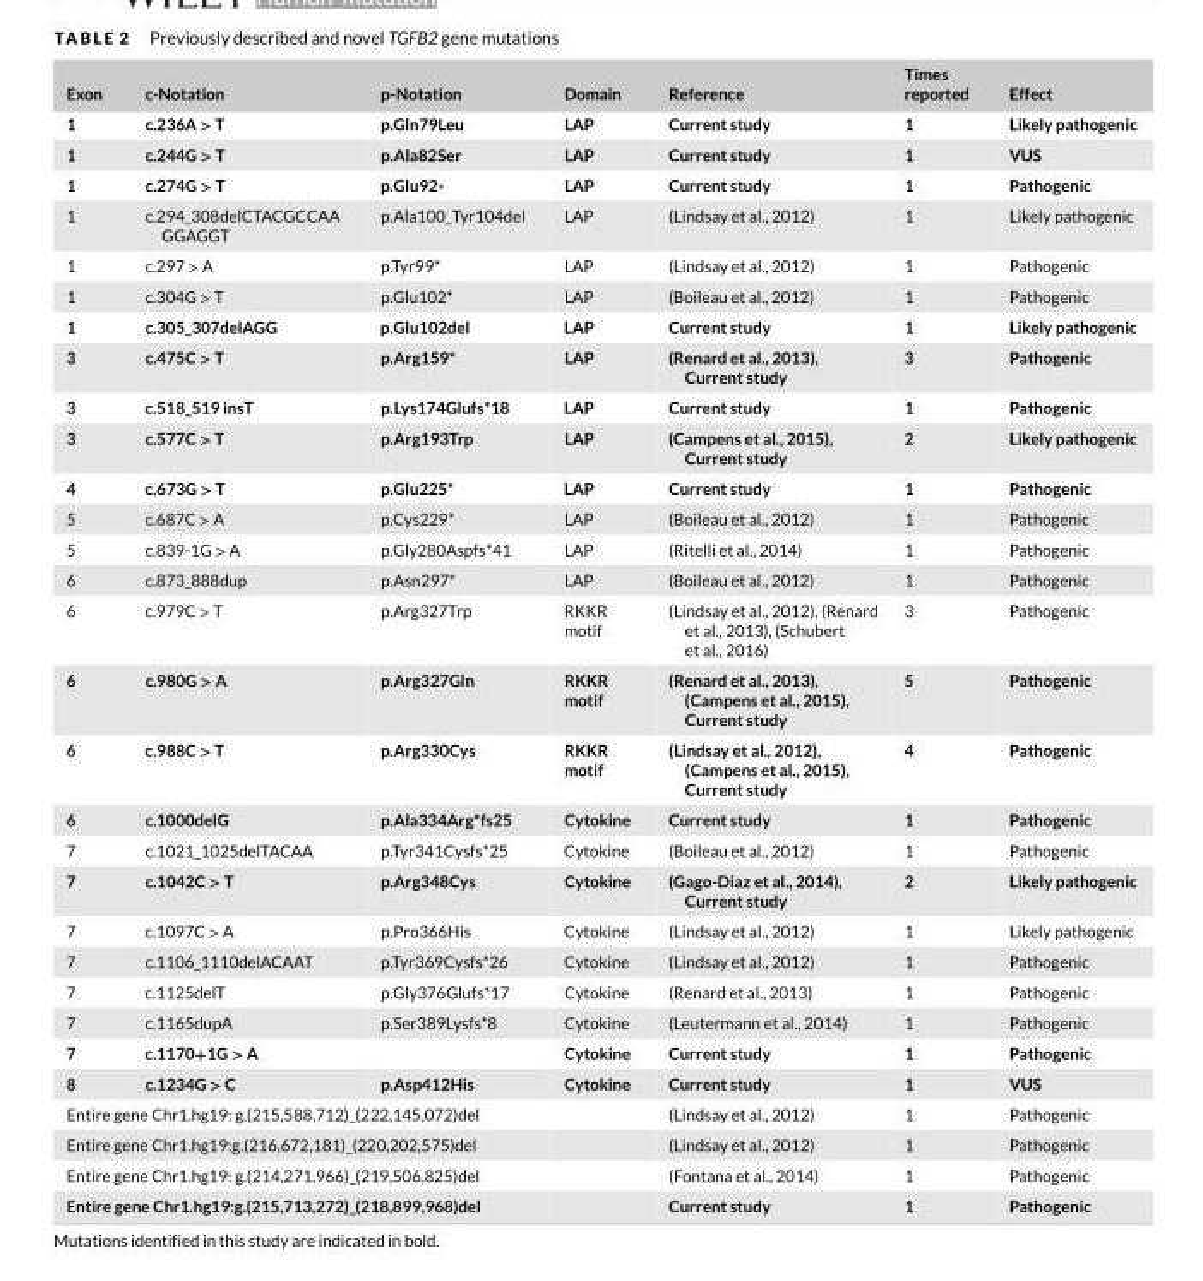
<table><thead><tr><td>Exon</td><td>c-Notation</td><td>p-Notation</td><td>Domain</td><td>Reference</td><td>Times reported</td><td>Effect</td></tr></thead><tbody><tr><td>1</td><td>c.236A &gt; T</td><td>p.Gln79Leu</td><td>LAP</td><td>Current study</td><td>1</td><td>Likely pathogenic</td></tr><tr><td>1</td><td>c.244G &gt; T</td><td>p.Ala82Ser</td><td>LAP</td><td>Current study</td><td>1</td><td>VUS</td></tr><tr><td>1</td><td>c.274G &gt; T</td><td>p.Glu92*</td><td>LAP</td><td>Current study</td><td>1</td><td>Pathogenic</td></tr><tr><td>1</td><td>c.294_308delCTACGCCAA GGAGGT</td><td>p.Ala100_Tyr104del</td><td>LAP</td><td>(Lindsay et al., 2012)</td><td>1</td><td>Likely pathogenic</td></tr><tr><td>1</td><td>c.297 &gt; A</td><td>p.Tyr99*</td><td>LAP</td><td>(Lindsay et al., 2012)</td><td>1</td><td>Pathogenic</td></tr><tr><td>1</td><td>c.304G &gt; T</td><td>p.Glu102*</td><td>LAP</td><td>(Boileau et al., 2012)</td><td>1</td><td>Pathogenic</td></tr><tr><td>1</td><td>c.305_307delAGG</td><td>p.Glu102del</td><td>LAP</td><td>Current study</td><td>1</td><td>Likely pathogenic</td></tr><tr><td>3</td><td>c.475C &gt; T</td><td>p.Arg159*</td><td>LAP</td><td>(Renard et al., 2013), Current study</td><td>3</td><td>Pathogenic</td></tr><tr><td>3</td><td>c.518_519 insT</td><td>p.Lys174Glufs*18</td><td>LAP</td><td>Current study</td><td>1</td><td>Pathogenic</td></tr><tr><td>3</td><td>c.577C &gt; T</td><td>p.Arg193Trp</td><td>LAP</td><td>(Campens et al., 2015), Current study</td><td>2</td><td>Likely pathogenic</td></tr><tr><td>4</td><td>c.673G &gt; T</td><td>p.Glu225*</td><td>LAP</td><td>Current study</td><td>1</td><td>Pathogenic</td></tr><tr><td>5</td><td>c.687C &gt; A</td><td>p.Cys229*</td><td>LAP</td><td>(Boileau et al., 2012)</td><td>1</td><td>Pathogenic</td></tr><tr><td>5</td><td>c.839-1G &gt; A</td><td>p.Gly280Aspfs*41</td><td>LAP</td><td>(Ritelli et al., 2014)</td><td>1</td><td>Pathogenic</td></tr><tr><td>6</td><td>c.873_888dup</td><td>p.Asn297*</td><td>LAP</td><td>(Boileau et al., 2012)</td><td>1</td><td>Pathogenic</td></tr><tr><td>6</td><td>c.979C &gt; T</td><td>p.Arg327Trp</td><td>RKKR motif</td><td>(Lindsay et al., 2012), (Renard et al., 2013), (Schubert et al., 2016)</td><td>3</td><td>Pathogenic</td></tr><tr><td>6</td><td>c.980G &gt; A</td><td>p.Arg327Gln</td><td>RKKR motif</td><td>(Renard et al., 2013), (Campens et al., 2015), Current study</td><td>5</td><td>Pathogenic</td></tr><tr><td>6</td><td>c.988C &gt; T</td><td>p.Arg330Cys</td><td>RKKR motif</td><td>(Lindsay et al., 2012), (Campens et al., 2015), Current study</td><td>4</td><td>Pathogenic</td></tr><tr><td>6</td><td>c.1000delG</td><td>p.Ala334Arg*fs25</td><td>Cytokine</td><td>Current study</td><td>1</td><td>Pathogenic</td></tr><tr><td>7</td><td>c.1021_1025delTACAA</td><td>p.Tyr341Cysfs*25</td><td>Cytokine</td><td>(Boileau et al., 2012)</td><td>1</td><td>Pathogenic</td></tr><tr><td>7</td><td>c.1042C &gt; T</td><td>p.Arg348Cys</td><td>Cytokine</td><td>(Gago-Diaz et al., 2014), Current study</td><td>2</td><td>Likely pathogenic</td></tr><tr><td>7</td><td>c.1097C &gt; A</td><td>p.Pro366His</td><td>Cytokine</td><td>(Lindsay et al., 2012)</td><td>1</td><td>Likely pathogenic</td></tr><tr><td>7</td><td>c.1106_1110delACAAT</td><td>p.Tyr369Cysfs*26</td><td>Cytokine</td><td>(Lindsay et al., 2012)</td><td>1</td><td>Pathogenic</td></tr><tr><td>7</td><td>c.1125delT</td><td>p.Gly376Glufs*17</td><td>Cytokine</td><td>(Renard et al., 2013)</td><td>1</td><td>Pathogenic</td></tr><tr><td>7</td><td>c.1165dupA</td><td>p.Ser389Lysfs*8</td><td>Cytokine</td><td>(Leutermann et al., 2014)</td><td>1</td><td>Pathogenic</td></tr><tr><td>7</td><td>c.1170+1G &gt; A</td><td></td><td>Cytokine</td><td>Current study</td><td>1</td><td>Pathogenic</td></tr><tr><td>8</td><td>c.1234G &gt; C</td><td>p.Asp412His</td><td>Cytokine</td><td>Current study</td><td>1</td><td>VUS</td></tr><tr><td colspan="3">Entire gene Chr1.hg19: g.(215,588,712)_(222,145,072)del</td><td></td><td>(Lindsay et al., 2012)</td><td>1</td><td>Pathogenic</td></tr><tr><td colspan="3">Entire gene Chr1.hg19:g.(216,672,181)_(220,202,575)del</td><td></td><td>(Lindsay et al., 2012)</td><td>1</td><td>Pathogenic</td></tr><tr><td colspan="4">Entire gene Chr1.hg19: g.(214,271,966)_(219,506,825)del</td><td>(Fontana et al., 2014)</td><td>1</td><td>Pathogenic</td></tr><tr><td colspan="3">Entire gene Chr1.hg19:g.(215,713,272)_(218,899,968)del</td><td></td><td>Current study</td><td>1</td><td>Pathogenic</td></tr></tbody></table>